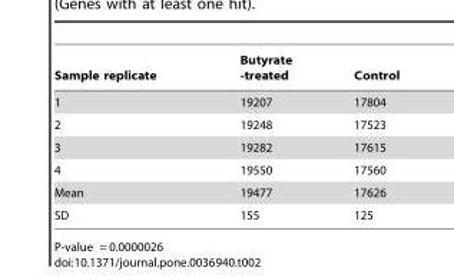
<table><thead><tr><td>Sample replicate</td><td>Butyrate -treated</td><td>Control</td></tr></thead><tbody><tr><td>1</td><td>19207</td><td>17804</td></tr><tr><td>2</td><td>19248</td><td>17523</td></tr><tr><td>3</td><td>19282</td><td>17615</td></tr><tr><td>4</td><td>19550</td><td>17560</td></tr><tr><td>Mean</td><td>19477</td><td>17626</td></tr><tr><td>SD</td><td>155</td><td>125</td></tr></tbody></table>